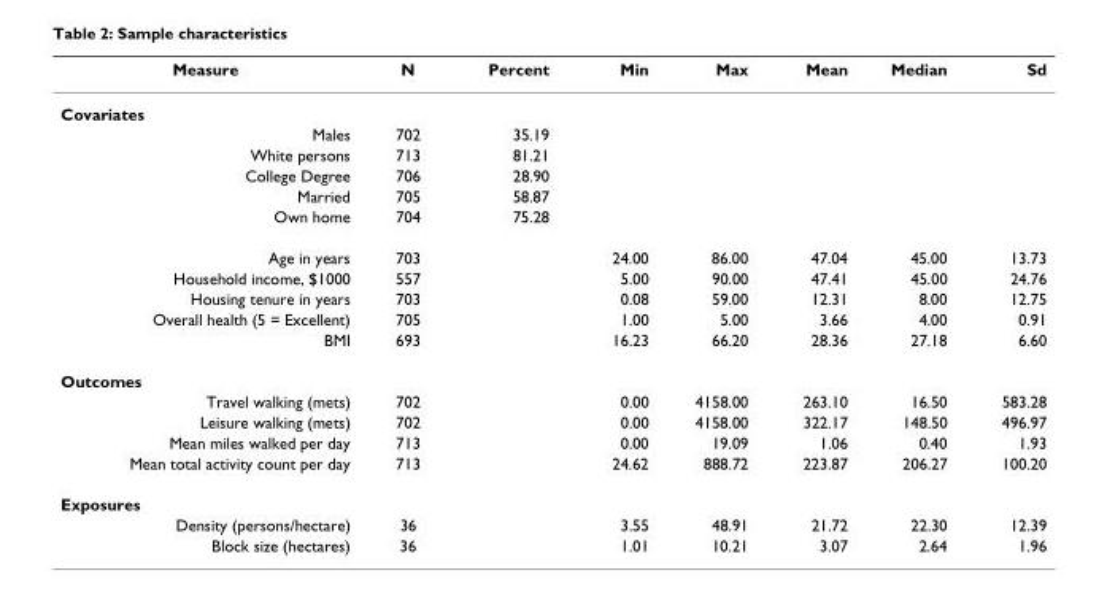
<table><thead><tr><td>Measure</td><td>N</td><td>Percent</td><td>Min</td><td>Max</td><td>Mean</td><td>Median</td><td>Sd</td></tr></thead><tbody><tr><td colspan="8">Covariates</td></tr><tr><td>Males</td><td>702</td><td>35.19</td><td></td><td></td><td></td><td></td><td></td></tr><tr><td>White persons</td><td>713</td><td>81.21</td><td></td><td></td><td></td><td></td><td></td></tr><tr><td>College Degree</td><td>706</td><td>28.90</td><td></td><td></td><td></td><td></td><td></td></tr><tr><td>Married</td><td>705</td><td>58.87</td><td></td><td></td><td></td><td></td><td></td></tr><tr><td>Own home</td><td>704</td><td>75.28</td><td></td><td></td><td></td><td></td><td></td></tr><tr><td>Age in years</td><td>703</td><td></td><td>24.00</td><td>86.00</td><td>47.04</td><td>45.00</td><td>13.73</td></tr><tr><td>Household income, $1000</td><td>557</td><td></td><td>5.00</td><td>90.00</td><td>47.41</td><td>45.00</td><td>24.76</td></tr><tr><td>Housing tenure in years</td><td>703</td><td></td><td>0.08</td><td>59.00</td><td>12.31</td><td>8.00</td><td>12.75</td></tr><tr><td>Overall health (5 = Excellent)</td><td>705</td><td></td><td>1.00</td><td>5.00</td><td>3.66</td><td>4.00</td><td>0.91</td></tr><tr><td>BMI</td><td>693</td><td></td><td>16.23</td><td>66.20</td><td>28.36</td><td>27.18</td><td>6.60</td></tr><tr><td colspan="8">Outcomes</td></tr><tr><td>Travel walking (mets)</td><td>702</td><td></td><td>0.00</td><td>4158.00</td><td>263.10</td><td>16.50</td><td>583.28</td></tr><tr><td>Leisure walking (mets)</td><td>702</td><td></td><td>0.00</td><td>4158.00</td><td>322.17</td><td>148.50</td><td>496.97</td></tr><tr><td>Mean miles walked per day</td><td>713</td><td></td><td>0.00</td><td>19.09</td><td>1.06</td><td>0.40</td><td>1.93</td></tr><tr><td>Mean total activity count per day</td><td>713</td><td></td><td>24.62</td><td>888.72</td><td>223.87</td><td>206.27</td><td>100.20</td></tr><tr><td colspan="8">Exposures</td></tr><tr><td>Density (persons/hectare)</td><td>36</td><td></td><td>3.55</td><td>48.91</td><td>21.72</td><td>22.30</td><td>12.39</td></tr><tr><td>Block size (hectares)</td><td>36</td><td></td><td>1.01</td><td>10.21</td><td>3.07</td><td>2.64</td><td>1.96</td></tr></tbody></table>